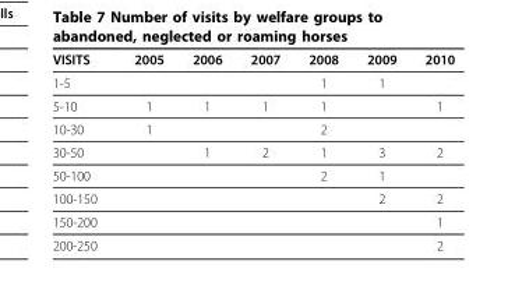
<table><thead><tr><td>VISITS</td><td>2005</td><td>2006</td><td>2007</td><td>2008</td><td>2009</td><td>2010</td></tr></thead><tbody><tr><td>1-5</td><td></td><td></td><td></td><td>1</td><td>1</td><td></td></tr><tr><td>5-10</td><td>1</td><td>1</td><td>1</td><td>1</td><td></td><td>1</td></tr><tr><td>10-30</td><td>1</td><td></td><td></td><td>2</td><td></td><td></td></tr><tr><td>30-50</td><td></td><td>1</td><td>2</td><td>1</td><td>3</td><td>2</td></tr><tr><td>50-100</td><td></td><td></td><td></td><td>2</td><td>1</td><td></td></tr><tr><td>100-150</td><td></td><td></td><td></td><td></td><td>2</td><td>2</td></tr><tr><td>150-200</td><td></td><td></td><td></td><td></td><td></td><td>1</td></tr><tr><td>200-250</td><td></td><td></td><td></td><td></td><td></td><td>2</td></tr></tbody></table>